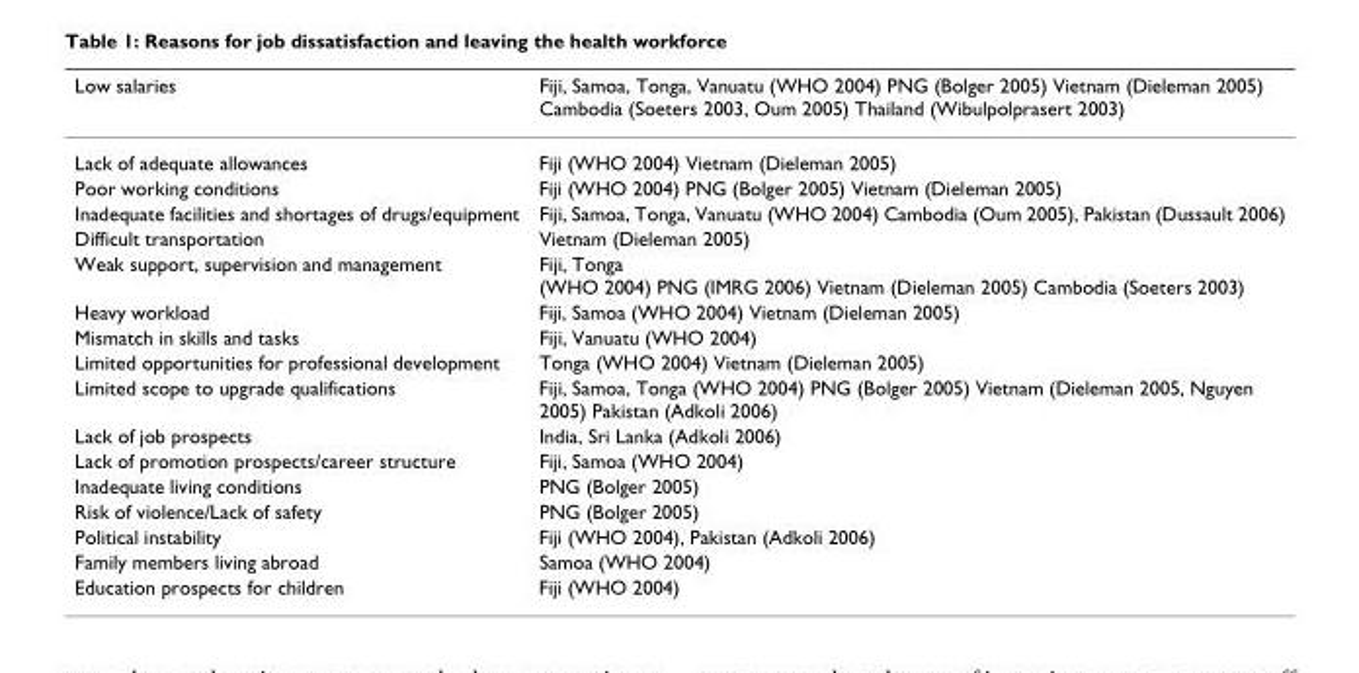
<table><thead><tr><td>Low salaries</td><td>Fiji, Samoa, Tonga, Vanuatu (WHO 2004) PNG (Bolger 2005) Vietnam (Dieleman 2005) Cambodia (Soeters 2003, Oum 2005) Thailand (Wibulpolprasert 2003)</td></tr></thead><tbody><tr><td>Lack of adequate allowances</td><td>Fiji (WHO 2004) Vietnam (Dieleman 2005)</td></tr><tr><td>Poor working conditions</td><td>Fiji (WHO 2004) PNG (Bolger 2005) Vietnam (Dieleman 2005)</td></tr><tr><td>Inadequate facilities and shortages of drugs/equipment</td><td>Fiji, Samoa, Tonga, Vanuatu (WHO 2004) Cambodia (Oum 2005), Pakistan (Dussault 2006)</td></tr><tr><td>Difficult transportation</td><td>Vietnam (Dieleman 2005)</td></tr><tr><td>Weak support, supervision and management</td><td>Fiji, Tonga (WHO 2004) PNG (IMRG 2006) Vietnam (Dieleman 2005) Cambodia (Soeters 2003)</td></tr><tr><td>Heavy workload</td><td>Fiji, Samoa (WHO 2004) Vietnam (Dieleman 2005)</td></tr><tr><td>Mismatch in skills and tasks</td><td>Fiji, Vanuatu (WHO 2004)</td></tr><tr><td>Limited opportunities for professional development</td><td>Tonga (WHO 2004) Vietnam (Dieleman 2005)</td></tr><tr><td>Limited scope to upgrade qualifications</td><td>Fiji, Samoa, Tonga (WHO 2004) PNG (Bolger 2005) Vietnam (Dieleman 2005, Nguyen 2005) Pakistan (Adkoli 2006)</td></tr><tr><td>Lack of job prospects</td><td>India, Sri Lanka (Adkoli 2006)</td></tr><tr><td>Lack of promotion prospects/career structure</td><td>Fiji, Samoa (WHO 2004)</td></tr><tr><td>Inadequate living conditions</td><td>PNG (Bolger 2005)</td></tr><tr><td>Risk of violence/Lack of safety</td><td>PNG (Bolger 2005)</td></tr><tr><td>Political instability</td><td>Fiji (WHO 2004), Pakistan (Adkoli 2006)</td></tr><tr><td>Family members living abroad</td><td>Samoa (WHO 2004)</td></tr><tr><td>Education prospects for children</td><td>Fiji (WHO 2004)</td></tr></tbody></table>